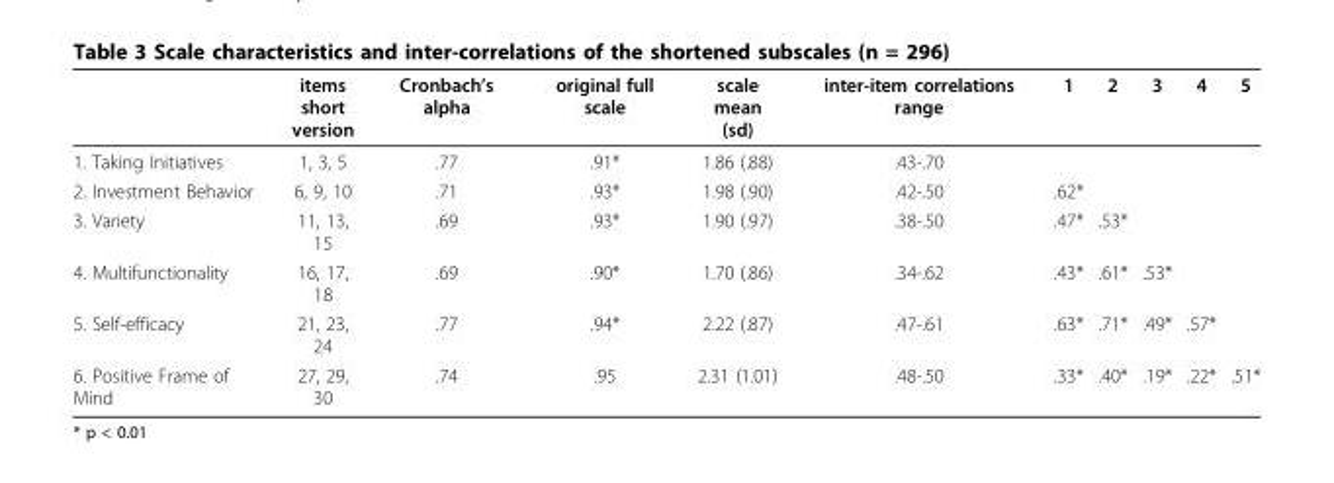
<table><thead><tr><td></td><td>items short version</td><td>Cronbach’s alpha</td><td>original full scale</td><td>scale mean (sd)</td><td>inter-item correlations range</td><td>1</td><td>2</td><td>3</td><td>4</td><td>5</td></tr></thead><tbody><tr><td>1. Taking Initiatives</td><td>1, 3, 5</td><td>.77</td><td>.91*</td><td>1.86 (.88)</td><td>.43-.70</td><td></td><td></td><td></td><td></td><td></td></tr><tr><td>2. Investment Behavior</td><td>6, 9, 10</td><td>.71</td><td>.93*</td><td>1.98 (.90)</td><td>.42-.50</td><td>.62*</td><td></td><td></td><td></td><td></td></tr><tr><td>3. Variety</td><td>11, 13, 15</td><td>.69</td><td>.93*</td><td>1.90 (.97)</td><td>.38-.50</td><td>.47*</td><td>.53*</td><td></td><td></td><td></td></tr><tr><td>4. Multifunctionality</td><td>16, 17, 18</td><td>.69</td><td>.90*</td><td>1.70 (.86)</td><td>.34-.62</td><td>.43*</td><td>.61*</td><td>.53*</td><td></td><td></td></tr><tr><td>5. Self-efficacy</td><td>21, 23, 24</td><td>.77</td><td>.94*</td><td>2.22 (.87)</td><td>.47-.61</td><td>.63*</td><td>.71*</td><td>.49*</td><td>.57*</td><td></td></tr><tr><td>6. Positive Frame of Mind</td><td>27, 29, 30</td><td>.74</td><td>.95</td><td>2.31 (1.01)</td><td>.48-.50</td><td>.33*</td><td>.40*</td><td>.19*</td><td>.22*</td><td>.51*</td></tr></tbody></table>